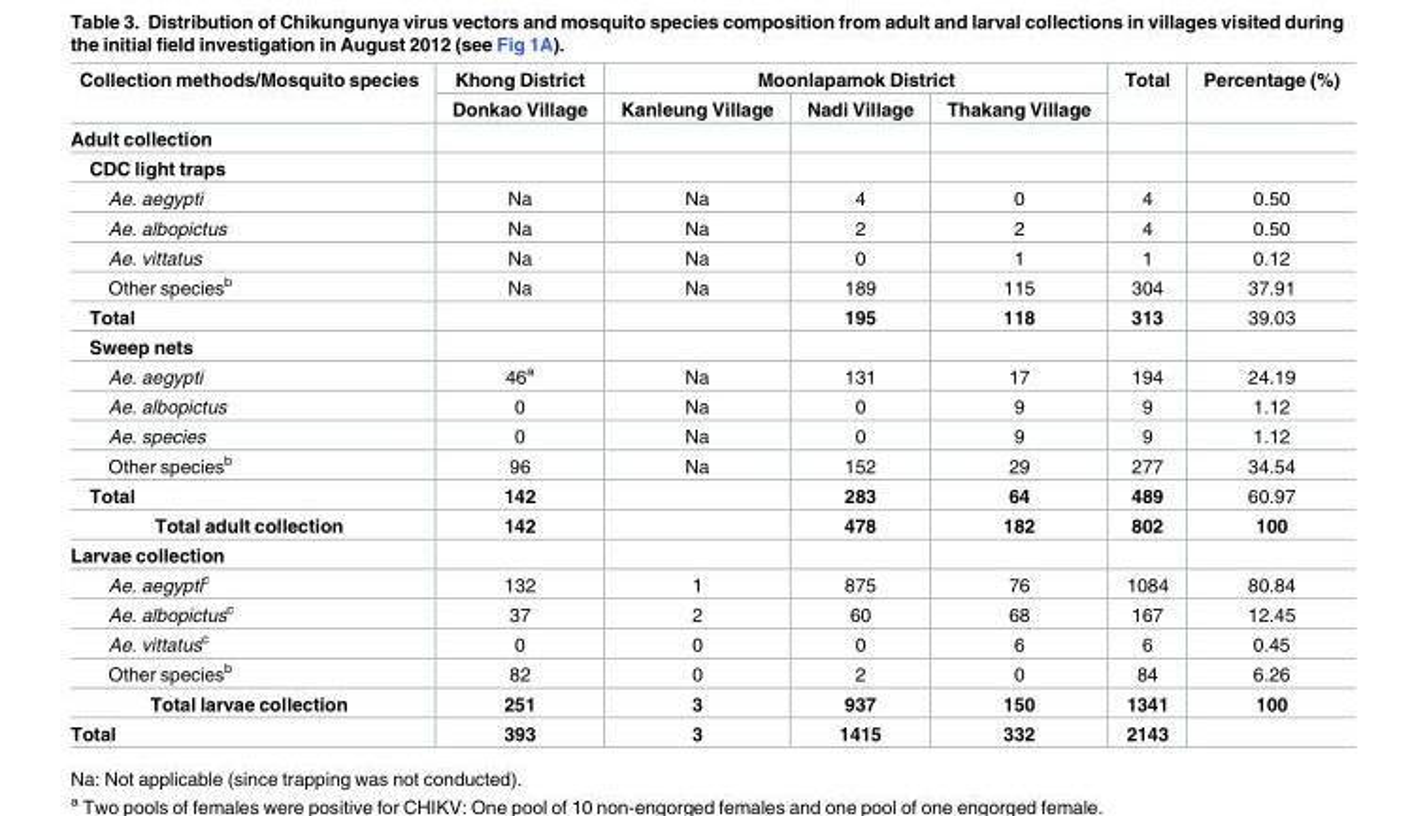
<table><thead><tr><td rowspan="2">Collection methods/Mosquito species</td><td rowspan="2">Khong District Donkao Village</td><td colspan="3">Moonlapamok District</td><td rowspan="2">Total</td><td rowspan="2">Percentage (%)</td></tr><tr><td>Kanleung Village</td><td>Nadi Village</td><td>Thakang Village</td></tr></thead><tbody><tr><td colspan="7">Adult collection</td></tr><tr><td colspan="7">CDC light traps</td></tr><tr><td>Ae. aegypti</td><td>Na</td><td>Na</td><td>4</td><td>0</td><td>4</td><td>0.50</td></tr><tr><td>Ae. albopictus</td><td>Na</td><td>Na</td><td>2</td><td>2</td><td>4</td><td>0.50</td></tr><tr><td>Ae. vittatus</td><td>Na</td><td>Na</td><td>0</td><td>1</td><td>1</td><td>0.12</td></tr><tr><td>Other species<sup>b</sup></td><td>Na</td><td>Na</td><td>189</td><td>115</td><td>304</td><td>37.91</td></tr><tr><td>Total</td><td></td><td></td><td>195</td><td>118</td><td>313</td><td>39.03</td></tr><tr><td colspan="7">Sweep nets</td></tr><tr><td>Ae. aegypti</td><td>46<sup>a</sup></td><td>Na</td><td>131</td><td>17</td><td>194</td><td>24.19</td></tr><tr><td>Ae. albopictus</td><td>0</td><td>Na</td><td>0</td><td>9</td><td>9</td><td>1.12</td></tr><tr><td>Ae. species</td><td>0</td><td>Na</td><td>0</td><td>9</td><td>9</td><td>1.12</td></tr><tr><td>Other species<sup>b</sup></td><td>96</td><td>Na</td><td>152</td><td>29</td><td>277</td><td>34.54</td></tr><tr><td>Total</td><td>142</td><td></td><td>283</td><td>64</td><td>489</td><td>60.97</td></tr><tr><td>Total adult collection</td><td>142</td><td></td><td>478</td><td>182</td><td>802</td><td>100</td></tr><tr><td colspan="7">Larvae collection</td></tr><tr><td>Ae. aegypti<sup>c</sup></td><td>132</td><td>1</td><td>875</td><td>76</td><td>1084</td><td>80.84</td></tr><tr><td>Ae. albopictus<sup>c</sup></td><td>37</td><td>2</td><td>60</td><td>68</td><td>167</td><td>12.45</td></tr><tr><td>Ae. vittatus<sup>c</sup></td><td>0</td><td>0</td><td>0</td><td>6</td><td>6</td><td>0.45</td></tr><tr><td>Other species<sup>b</sup></td><td>82</td><td>0</td><td>2</td><td>0</td><td>84</td><td>6.26</td></tr><tr><td>Total larvae collection</td><td>251</td><td>3</td><td>937</td><td>150</td><td>1341</td><td>100</td></tr><tr><td>Total</td><td>393</td><td>3</td><td>1415</td><td>332</td><td>2143</td><td></td></tr></tbody></table>